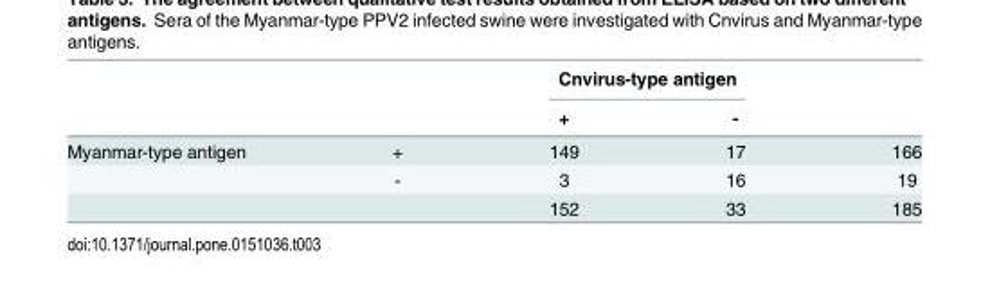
<table><thead><tr><td rowspan="2"></td><td rowspan="2"></td><td colspan="2">Cnvirus-type antigen</td><td rowspan="2"></td></tr><tr><td>+</td><td>-</td></tr></thead><tbody><tr><td rowspan="3">Myanmar-type antigen</td><td>+</td><td>149</td><td>17</td><td>166</td></tr><tr><td>-</td><td>3</td><td>16</td><td>19</td></tr><tr><td></td><td>152</td><td>33</td><td>185</td></tr></tbody></table>